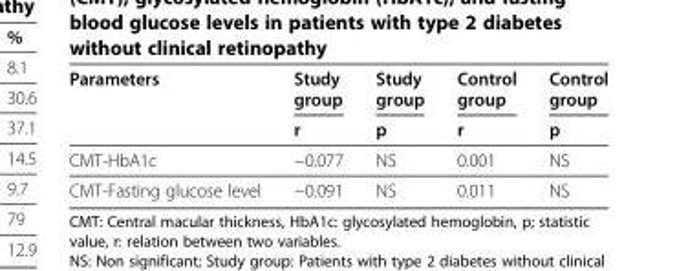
<table><thead><tr><td rowspan="2">Parameters</td><td rowspan="2">Study group r</td><td rowspan="2">Study group p</td><td rowspan="2">Control group r</td><td rowspan="2">Control group p</td></tr><tr></tr></thead><tbody><tr><td>CMT-HbA1c</td><td>−0.077</td><td>NS</td><td>0.001</td><td>NS</td></tr><tr><td>CMT-Fasting glucose level</td><td>−0.091</td><td>NS</td><td>0.011</td><td>NS</td></tr></tbody></table>